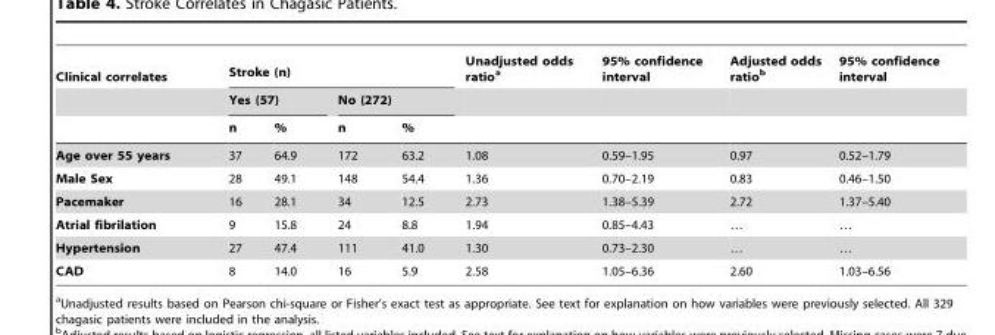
<table><thead><tr><td rowspan="3">Clinical correlates</td><td colspan="4">Stroke (n)</td><td rowspan="3">Unadjusted odds ratio<sup>a</sup></td><td rowspan="3">95% confidence interval</td><td rowspan="3">Adjusted odds ratio<sup>b</sup></td><td rowspan="3">95% confidence interval</td></tr><tr><td colspan="2">Yes (57)</td><td colspan="2">No (272)</td></tr><tr><td>n</td><td>%</td><td>n</td><td>%</td></tr></thead><tbody><tr><td>Age over 55 years</td><td>37</td><td>64.9</td><td>172</td><td>63.2</td><td>1.08</td><td>0.59–1.95</td><td>0.97</td><td>0.52–1.79</td></tr><tr><td>Male Sex</td><td>28</td><td>49.1</td><td>148</td><td>54.4</td><td>1.36</td><td>0.70–2.19</td><td>0.83</td><td>0.46–1.50</td></tr><tr><td>Pacemaker</td><td>16</td><td>28.1</td><td>34</td><td>12.5</td><td>2.73</td><td>1.38–5.39</td><td>2.72</td><td>1.37–5.40</td></tr><tr><td>Atrial fibrilation</td><td>9</td><td>15.8</td><td>24</td><td>8.8</td><td>1.94</td><td>0.85–4.43</td><td>…</td><td>…</td></tr><tr><td>Hypertension</td><td>27</td><td>47.4</td><td>111</td><td>41.0</td><td>1.30</td><td>0.73–2.30</td><td>…</td><td>…</td></tr><tr><td>CAD</td><td>8</td><td>14.0</td><td>16</td><td>5.9</td><td>2.58</td><td>1.05–6.36</td><td>2.60</td><td>1.03–6.56</td></tr></tbody></table>